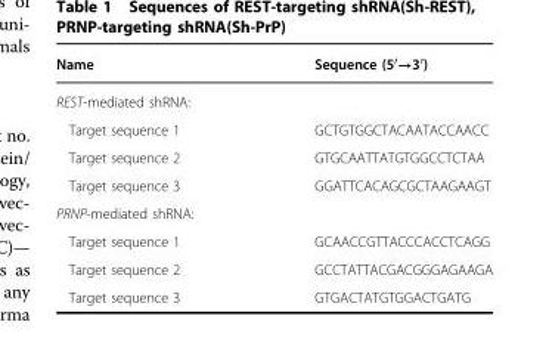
<table><thead><tr><td>Name</td><td>Sequence (5′→3′)</td></tr></thead><tbody><tr><td colspan="2">REST-mediated shRNA:</td></tr><tr><td>Target sequence 1</td><td>GCTGTGGCTACAATACCAACC</td></tr><tr><td>Target sequence 2</td><td>GTGCAATTATGTGGCCTCTAA</td></tr><tr><td>Target sequence 3</td><td>GGATTCACAGCGCTAAGAAGT</td></tr><tr><td colspan="2">PRNP-mediated shRNA:</td></tr><tr><td>Target sequence 1</td><td>GCAACCGTTACCCACCTCAGG</td></tr><tr><td>Target sequence 2</td><td>GCCTATTACGACGGGAGAAGA</td></tr><tr><td>Target sequence 3</td><td>GTGACTATGTGGACTGATG</td></tr></tbody></table>